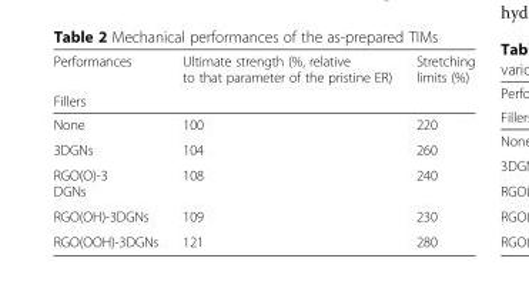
<table><thead><tr><td rowspan="2">Performances Fillers</td><td rowspan="2">Ultimate strength (%, relative to that parameter of the pristine ER)</td><td rowspan="2">Stretching limits (%)</td></tr><tr></tr></thead><tbody><tr><td>None</td><td>100</td><td>220</td></tr><tr><td>3DGNs</td><td>104</td><td>260</td></tr><tr><td>RGO(O)-3 DGNs</td><td>108</td><td>240</td></tr><tr><td>RGO(OH)-3DGNs</td><td>109</td><td>230</td></tr><tr><td>RGO(OOH)-3DGNs</td><td>121</td><td>280</td></tr></tbody></table>